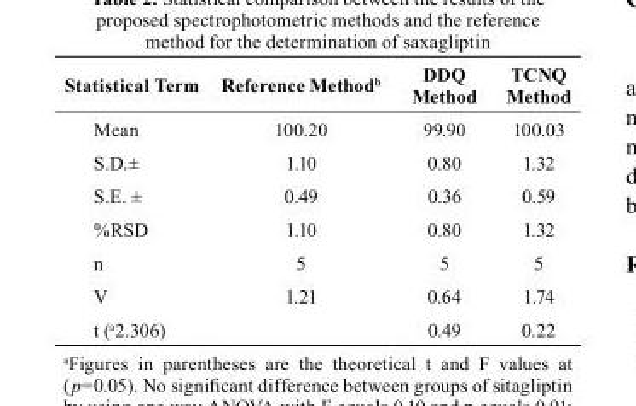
<table><thead><tr><td>statistical term</td><td>reference Method<sup>b</sup></td><td>DDQ Method</td><td>tcNQ Method</td></tr></thead><tbody><tr><td>Mean</td><td>100.20</td><td>99.90</td><td>100.03</td></tr><tr><td>S.D.±</td><td>1.10</td><td>0.80</td><td>1.32</td></tr><tr><td>S.E. ±</td><td>0.49</td><td>0.36</td><td>0.59</td></tr><tr><td>%RSD</td><td>1.10</td><td>0.80</td><td>1.32</td></tr><tr><td>n</td><td>5</td><td>5</td><td>5</td></tr><tr><td>V</td><td>1.21</td><td>0.64</td><td>1.74</td></tr><tr><td>t (a2.306)</td><td></td><td>0.49</td><td>0.22</td></tr></tbody></table>